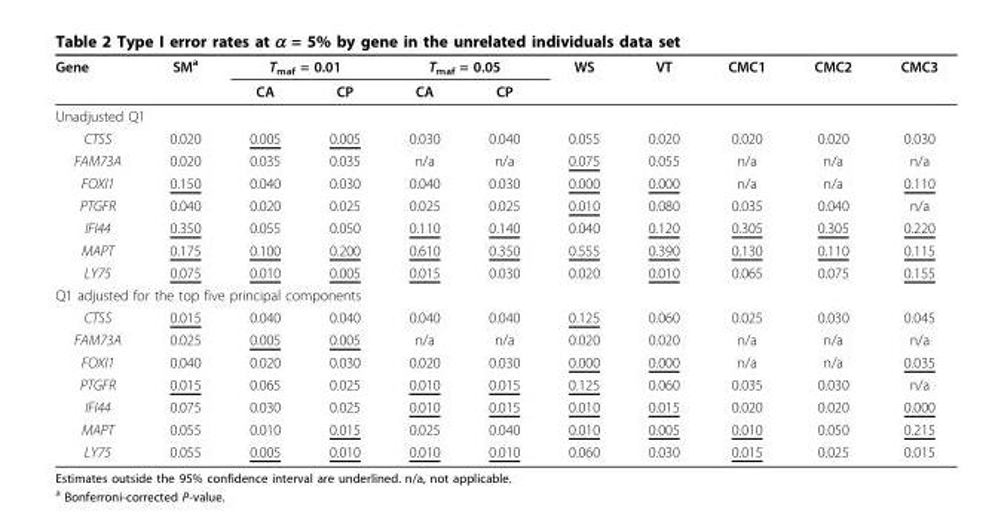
<table><thead><tr><td rowspan="2">Gene</td><td rowspan="2">SM<sup>a</sup></td><td colspan="2">T<sub>maf</sub> = 0.01</td><td colspan="2">T<sub>maf</sub> = 0.05</td><td rowspan="2">WS</td><td rowspan="2">VT</td><td rowspan="2">CMC1</td><td rowspan="2">CMC2</td><td rowspan="2">CMC3</td></tr><tr><td>CA</td><td>CP</td><td>CA</td><td>CP</td></tr></thead><tbody><tr><td colspan="11">Unadjusted Q1</td></tr><tr><td>CTSS</td><td>0.020</td><td>0.005</td><td>0.005</td><td>0.030</td><td>0.040</td><td>0.055</td><td>0.020</td><td>0.020</td><td>0.020</td><td>0.030</td></tr><tr><td>FAM73A</td><td>0.020</td><td>0.035</td><td>0.035</td><td>n/a</td><td>n/a</td><td>0.075</td><td>0.055</td><td>n/a</td><td>n/a</td><td>n/a</td></tr><tr><td>FOXI1</td><td>0.150</td><td>0.040</td><td>0.030</td><td>0.040</td><td>0.030</td><td>0.000</td><td>0.000</td><td>n/a</td><td>n/a</td><td>0.110</td></tr><tr><td>PTGFR</td><td>0.040</td><td>0.020</td><td>0.025</td><td>0.025</td><td>0.025</td><td>0.010</td><td>0.080</td><td>0.035</td><td>0.040</td><td>n/a</td></tr><tr><td>IFI44</td><td>0.350</td><td>0.055</td><td>0.050</td><td>0.110</td><td>0.140</td><td>0.040</td><td>0.120</td><td>0.305</td><td>0.305</td><td>0.220</td></tr><tr><td>MAPT</td><td>0.175</td><td>0.100</td><td>0.200</td><td>0.610</td><td>0.350</td><td>0.555</td><td>0.390</td><td>0.130</td><td>0.110</td><td>0.115</td></tr><tr><td>LY75</td><td>0.075</td><td>0.010</td><td>0.005</td><td>0.015</td><td>0.030</td><td>0.020</td><td>0.010</td><td>0.065</td><td>0.075</td><td>0.155</td></tr><tr><td colspan="11">Q1 adjusted for the top five principal components</td></tr><tr><td>CTSS</td><td>0.015</td><td>0.040</td><td>0.040</td><td>0.040</td><td>0.040</td><td>0.125</td><td>0.060</td><td>0.025</td><td>0.030</td><td>0.045</td></tr><tr><td>FAM73A</td><td>0.025</td><td>0.005</td><td>0.005</td><td>n/a</td><td>n/a</td><td>0.020</td><td>0.020</td><td>n/a</td><td>n/a</td><td>n/a</td></tr><tr><td>FOXI1</td><td>0.040</td><td>0.020</td><td>0.030</td><td>0.020</td><td>0.030</td><td>0.000</td><td>0.000</td><td>n/a</td><td>n/a</td><td>0.035</td></tr><tr><td>PTGFR</td><td>0.015</td><td>0.065</td><td>0.025</td><td>0.010</td><td>0.015</td><td>0.125</td><td>0.060</td><td>0.035</td><td>0.030</td><td>n/a</td></tr><tr><td>IFI44</td><td>0.075</td><td>0.030</td><td>0.025</td><td>0.010</td><td>0.015</td><td>0.010</td><td>0.015</td><td>0.020</td><td>0.020</td><td>0.000</td></tr><tr><td>MAPT</td><td>0.055</td><td>0.010</td><td>0.015</td><td>0.025</td><td>0.040</td><td>0.010</td><td>0.005</td><td>0.010</td><td>0.050</td><td>0.215</td></tr><tr><td>LY75</td><td>0.055</td><td>0.005</td><td>0.010</td><td>0.010</td><td>0.010</td><td>0.060</td><td>0.030</td><td>0.015</td><td>0.025</td><td>0.015</td></tr></tbody></table>